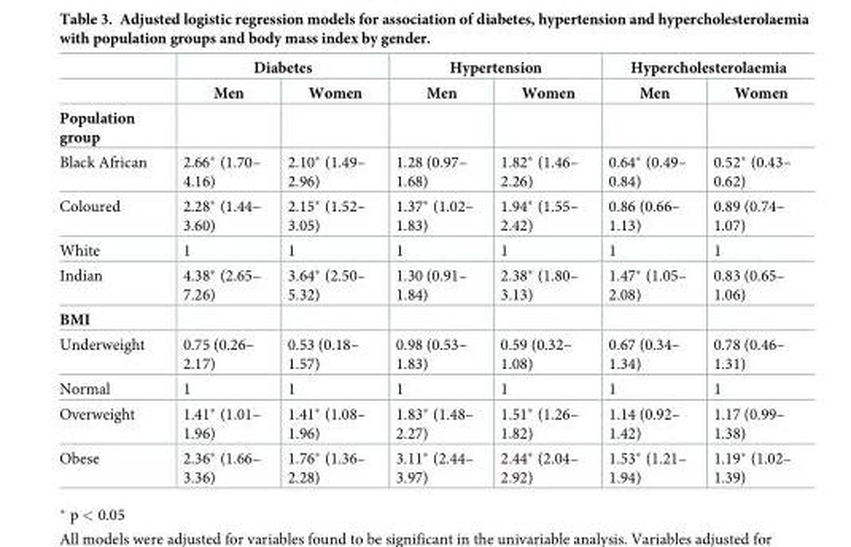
<table><thead><tr><td rowspan="2"></td><td colspan="2">Diabetes</td><td colspan="2">Hypertension</td><td colspan="2">Hypercholesterolaemia</td></tr><tr><td>Men</td><td>Women</td><td>Men</td><td>Women</td><td>Men</td><td>Women</td></tr></thead><tbody><tr><td colspan="7">Population group</td></tr><tr><td>Black African</td><td>2.66* (1.70– 4.16)</td><td>2.10* (1.49– 2.96)</td><td>1.28 (0.97– 1.68)</td><td>1.82* (1.46– 2.26)</td><td>0.64* (0.49– 0.84)</td><td>0.52* (0.43– 0.62)</td></tr><tr><td>Coloured</td><td>2.28* (1.44– 3.60)</td><td>2.15* (1.52– 3.05)</td><td>1.37* (1.02– 1.83)</td><td>1.94* (1.55– 2.42)</td><td>0.86 (0.66– 1.13)</td><td>0.89 (0.74– 1.07)</td></tr><tr><td>White</td><td>1</td><td>1</td><td>1</td><td>1</td><td>1</td><td>1</td></tr><tr><td>Indian</td><td>4.38* (2.65– 7.26)</td><td>3.64* (2.50– 5.32)</td><td>1.30 (0.91– 1.84)</td><td>2.38* (1.80– 3.13)</td><td>1.47* (1.05– 2.08)</td><td>0.83 (0.65– 1.06)</td></tr><tr><td colspan="7">BMI</td></tr><tr><td>Underweight</td><td>0.75 (0.26– 2.17)</td><td>0.53 (0.18– 1.57)</td><td>0.98 (0.53– 1.83)</td><td>0.59 (0.32– 1.08)</td><td>0.67 (0.34– 1.34)</td><td>0.78 (0.46– 1.31)</td></tr><tr><td>Normal</td><td>1</td><td>1</td><td>1</td><td>1</td><td>1</td><td>1</td></tr><tr><td>Overweight</td><td>1.41* (1.01– 1.96)</td><td>1.41* (1.08– 1.96)</td><td>1.83* (1.48– 2.27)</td><td>1.51* (1.26– 1.82)</td><td>1.14 (0.92– 1.42)</td><td>1.17 (0.99– 1.38)</td></tr><tr><td>Obese</td><td>2.36* (1.66– 3.36)</td><td>1.76* (1.36– 2.28)</td><td>3.11* (2.44– 3.97)</td><td>2.44* (2.04– 2.92)</td><td>1.53* (1.21– 1.94)</td><td>1.19* (1.02– 1.39)</td></tr></tbody></table>